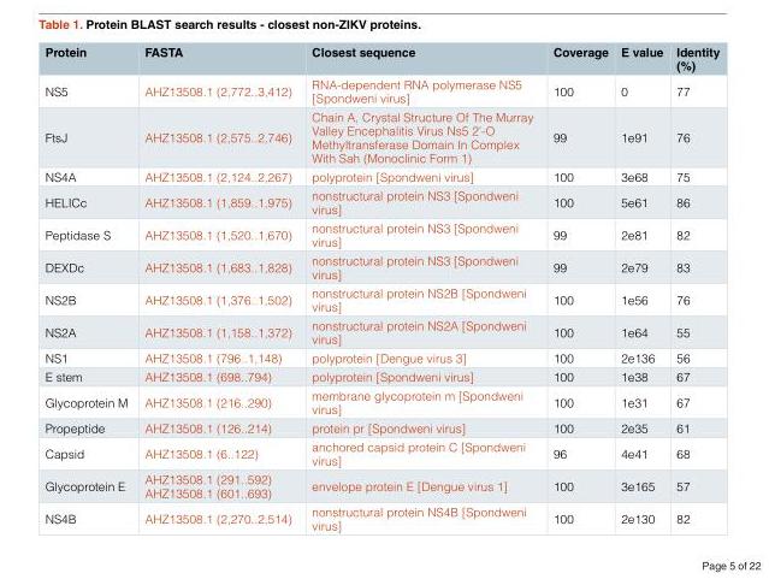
<table><thead><tr><td>Protein</td><td>FASTA</td><td>Closest sequence</td><td>Coverage</td><td>E value</td><td>Identity (%)</td></tr></thead><tbody><tr><td>NS5</td><td>AHZ13508.1 (2,772..3,412)</td><td>RNA-dependent RNA polymerase NS5 [Spondweni virus]</td><td>100</td><td>0</td><td>77</td></tr><tr><td>FtsJ</td><td>AHZ13508.1 (2,575..2,746)</td><td>Chain A, Crystal Structure Of The Murray Valley Encephalitis Virus Ns5 2’-O Methyltransferase Domain In Complex With Sah (Monoclinic Form 1)</td><td>99</td><td>1e91</td><td>76</td></tr><tr><td>NS4A</td><td>AHZ13508.1 (2,124..2,267)</td><td>polyprotein [Spondweni virus]</td><td>100</td><td>3e68</td><td>75</td></tr><tr><td>HELICc</td><td>AHZ13508.1 (1,859..1,975)</td><td>nonstructural protein NS3 [Spondweni virus]</td><td>100</td><td>5e61</td><td>86</td></tr><tr><td>Peptidase S</td><td>AHZ13508.1 (1,520..1,670)</td><td>nonstructural protein NS3 [Spondweni virus]</td><td>99</td><td>2e81</td><td>82</td></tr><tr><td>DEXDc</td><td>AHZ13508.1 (1,683..1,828)</td><td>nonstructural protein NS3 [Spondweni virus]</td><td>99</td><td>2e79</td><td>83</td></tr><tr><td>NS2B</td><td>AHZ13508.1 (1,376..1,502)</td><td>nonstructural protein NS2B [Spondweni virus]</td><td>100</td><td>1e56</td><td>76</td></tr><tr><td>NS2A</td><td>AHZ13508.1 (1,158..1,372)</td><td>nonstructural protein NS2A [Spondweni virus]</td><td>100</td><td>1e64</td><td>55</td></tr><tr><td>NS1</td><td>AHZ13508.1 (796..1,148)</td><td>polyprotein [Dengue virus 3]</td><td>100</td><td>2e136</td><td>56</td></tr><tr><td>E stem</td><td>AHZ13508.1 (698..794)</td><td>polyprotein [Spondweni virus]</td><td>100</td><td>1e38</td><td>67</td></tr><tr><td>Glycoprotein M</td><td>AHZ13508.1 (216..290)</td><td>membrane glycoprotein m [Spondweni virus]</td><td>100</td><td>1e31</td><td>67</td></tr><tr><td>Propeptide</td><td>AHZ13508.1 (126..214)</td><td>protein pr [Spondweni virus]</td><td>100</td><td>2e35</td><td>61</td></tr><tr><td>Capsid</td><td>AHZ13508.1 (6..122)</td><td>anchored capsid protein C [Spondweni virus]</td><td>96</td><td>4e41</td><td>68</td></tr><tr><td>Glycoprotein E</td><td>AHZ13508.1 (291..592) AHZ13508.1 (601..693)</td><td>envelope protein E [Dengue virus 1]</td><td>100</td><td>3e165</td><td>57</td></tr><tr><td>NS4B</td><td>AHZ13508.1 (2,270..2,514)</td><td>nonstructural protein NS4B [Spondweni virus]</td><td>100</td><td>2e130</td><td>82</td></tr></tbody></table>